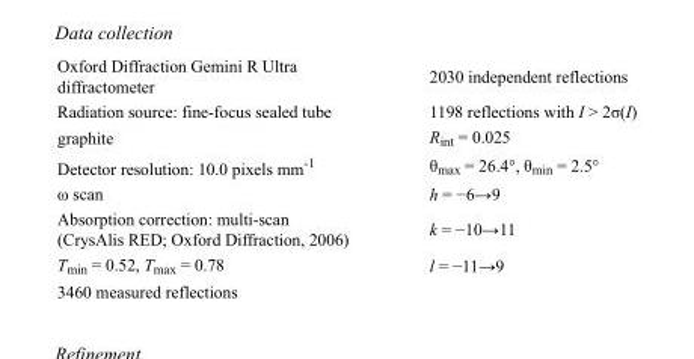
<table><tbody><tr><td>Oxford Diffraction Gemini R Ultra diffractometer</td><td>2030 independent reflections</td></tr><tr><td>Radiation source: fine-focus sealed tube</td><td>1198 reflections with I &gt; 2σ(I)</td></tr><tr><td>graphite</td><td>R<sub>int</sub> = 0.025</td></tr><tr><td>Detector resolution: 10.0 pixels mm<sup>-1</sup></td><td>θ<sub>max</sub> = 26.4°, θ<sub>min</sub> = 2.5°</td></tr><tr><td>ω scan</td><td>h = −6→9</td></tr><tr><td>Absorption correction: multi-scan (CrysAlis RED; Oxford Diffraction, 2006)</td><td>k = −10→11</td></tr><tr><td>T<sub>min</sub> = 0.52, T<sub>max</sub> = 0.78</td><td>l = −11→9</td></tr><tr><td>3460 measured reflections</td><td></td></tr></tbody></table>